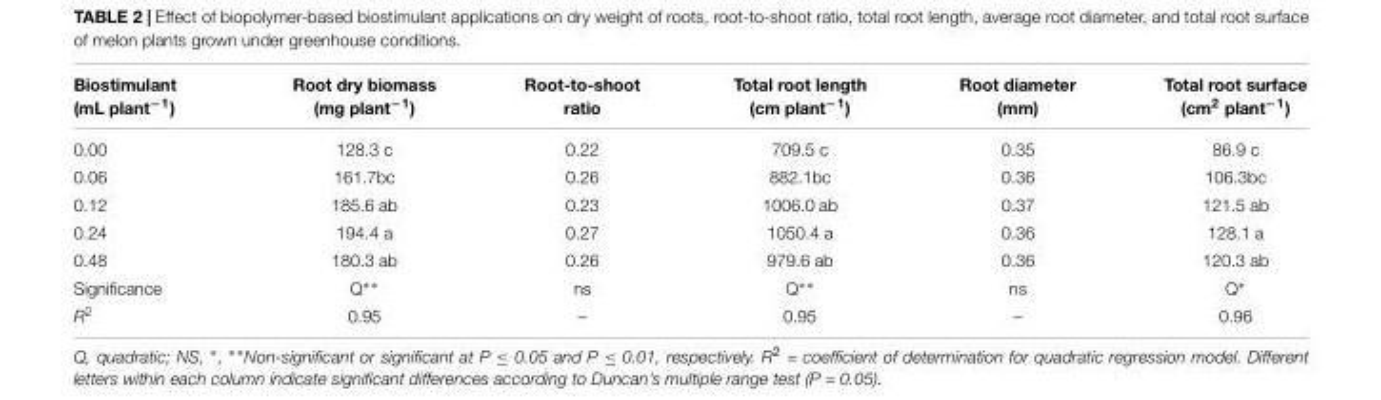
<table><thead><tr><td>Biostimulant (mL plant<sup>−1</sup>)</td><td>Root dry biomass (mg plant<sup>−1</sup>)</td><td>Root-to-shoot ratio</td><td>Total root length (cm plant<sup>−1</sup>)</td><td>Root diameter (mm)</td><td>Total root surface (cm<sup>2</sup> plant<sup>−1</sup>)</td></tr></thead><tbody><tr><td>0.00</td><td>128.3 c</td><td>0.22</td><td>709.5 c</td><td>0.35</td><td>86.9 c</td></tr><tr><td>0.06</td><td>161.7bc</td><td>0.26</td><td>882.1bc</td><td>0.36</td><td>106.3bc</td></tr><tr><td>0.12</td><td>185.6 ab</td><td>0.23</td><td>1006.0 ab</td><td>0.37</td><td>121.5 ab</td></tr><tr><td>0.24</td><td>194.4 a</td><td>0.27</td><td>1050.4 a</td><td>0.36</td><td>128.1 a</td></tr><tr><td>0.48</td><td>180.3 ab</td><td>0.26</td><td>979.6 ab</td><td>0.36</td><td>120.3 ab</td></tr><tr><td>Significance</td><td>Q∗∗</td><td>ns</td><td>Q∗∗</td><td>ns</td><td>Q∗</td></tr><tr><td>R<sup>2</sup></td><td>0.95</td><td>–</td><td>0.95</td><td>–</td><td>0.96</td></tr></tbody></table>